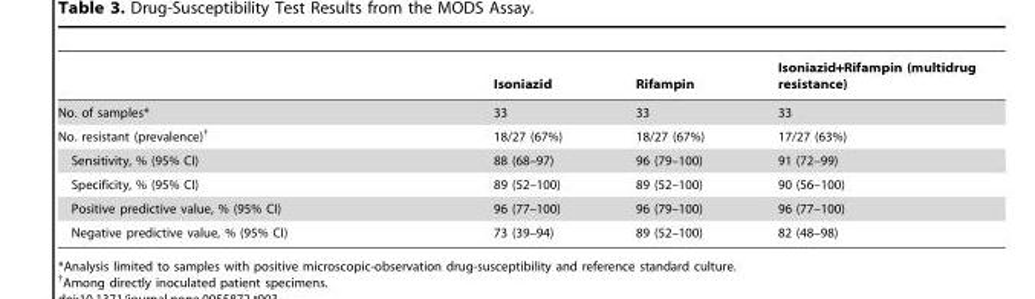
<table><thead><tr><td></td><td>Isoniazid</td><td>Rifampin</td><td>Isoniazid+Rifampin (multidrug resistance)</td></tr></thead><tbody><tr><td>No. of samples*</td><td>33</td><td>33</td><td>33</td></tr><tr><td>No. resistant (prevalence)†</td><td>18/27 (67%)</td><td>18/27 (67%)</td><td>17/27 (63%)</td></tr><tr><td>Sensitivity, % (95% CI)</td><td>88 (68–97)</td><td>96 (79–100)</td><td>91 (72–99)</td></tr><tr><td>Specificity, % (95% CI)</td><td>89 (52–100)</td><td>89 (52–100)</td><td>90 (56–100)</td></tr><tr><td>Positive predictive value, % (95% CI)</td><td>96 (77–100)</td><td>96 (79–100)</td><td>96 (77–100)</td></tr><tr><td>Negative predictive value, % (95% CI)</td><td>73 (39–94)</td><td>89 (52–100)</td><td>82 (48–98)</td></tr></tbody></table>